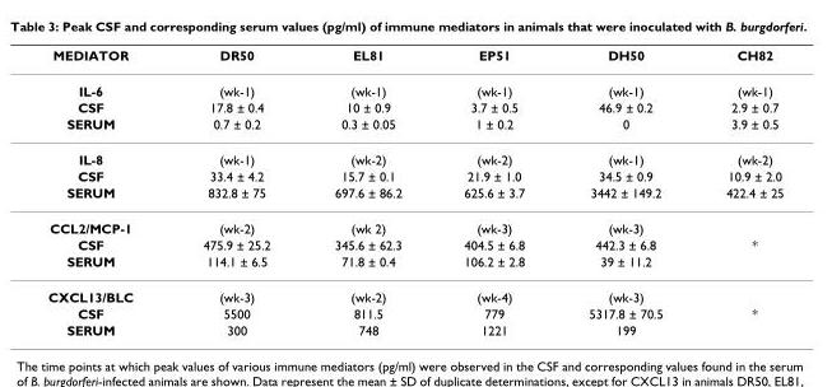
<table><thead><tr><td>MEDIATOR</td><td>DR50</td><td>EL81</td><td>EP51</td><td>DH50</td><td>CH82</td></tr></thead><tbody><tr><td>IL-6</td><td>(wk-1)</td><td>(wk-1)</td><td>(wk-1)</td><td>(wk-1)</td><td>(wk-1)</td></tr><tr><td>CSF</td><td>17.8 ± 0.4</td><td>10 ± 0.9</td><td>3.7 ± 0.5</td><td>46.9 ± 0.2</td><td>2.9 ± 0.7</td></tr><tr><td>SERUM</td><td>0.7 ± 0.2</td><td>0.3 ± 0.05</td><td>1 ± 0.2</td><td>0</td><td>3.9 ± 0.5</td></tr><tr><td>IL-8</td><td>(wk-1)</td><td>(wk-2)</td><td>(wk-2)</td><td>(wk-1)</td><td>(wk-2)</td></tr><tr><td>CSF</td><td>33.4 ± 4.2</td><td>15.7 ± 0.1</td><td>21.9 ± 1.0</td><td>34.5 ± 0.9</td><td>10.9 ± 2.0</td></tr><tr><td>SERUM</td><td>832.8 ± 75</td><td>697.6 ± 86.2</td><td>625.6 ± 3.7</td><td>3442 ± 149.2</td><td>422.4 ± 25</td></tr><tr><td>CCL2/MCP-1</td><td>(wk-2)</td><td>(wk 2)</td><td>(wk-3)</td><td>(wk-3)</td><td></td></tr><tr><td>CSF</td><td>475.9 ± 25.2</td><td>345.6 ± 62.3</td><td>404.5 ± 6.8</td><td>442.3 ± 6.8</td><td>*</td></tr><tr><td>SERUM</td><td>114.1 ± 6.5</td><td>71.8 ± 0.4</td><td>106.2 ± 2.8</td><td>39 ± 11.2</td><td></td></tr><tr><td>CXCL13/BLC</td><td>(wk-3)</td><td>(wk-2)</td><td>(wk-4)</td><td>(wk-3)</td><td></td></tr><tr><td>CSF</td><td>5500</td><td>811.5</td><td>779</td><td>5317.8 ± 70.5</td><td>*</td></tr><tr><td>SERUM</td><td>300</td><td>748</td><td>1221</td><td>199</td><td></td></tr></tbody></table>